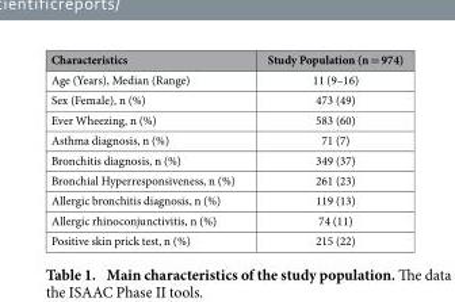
<table><thead><tr><td>Characteristics</td><td>Study Population (n = 974)</td></tr></thead><tbody><tr><td>Age (Years), Median (Range)</td><td>11 (9–16)</td></tr><tr><td>Sex (Female), n (%)</td><td>473 (49)</td></tr><tr><td>Ever Wheezing, n (%)</td><td>583 (60)</td></tr><tr><td>Asthma diagnosis, n (%)</td><td>71 (7)</td></tr><tr><td>Bronchitis diagnosis, n (%)</td><td>349 (37)</td></tr><tr><td>Bronchial Hyperresponsiveness, n (%)</td><td>261 (23)</td></tr><tr><td>Allergic bronchitis diagnosis, n (%)</td><td>119 (13)</td></tr><tr><td>Allergic rhinoconjunctivitis, n (%)</td><td>74 (11)</td></tr><tr><td>Positive skin prick test, n (%)</td><td>215 (22)</td></tr></tbody></table>